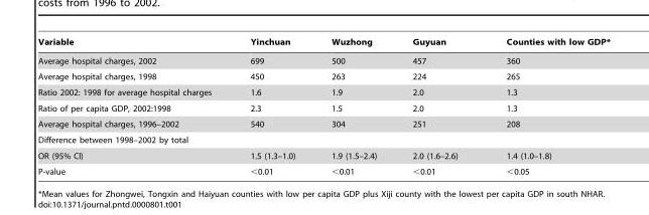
<table><thead><tr><td>Variable</td><td>Yinchuan</td><td>Wuzhong</td><td>Guyuan</td><td>Counties with low GDP*</td></tr></thead><tbody><tr><td>Average hospital charges, 2002</td><td>699</td><td>500</td><td>457</td><td>360</td></tr><tr><td>Average hospital charges, 1998</td><td>450</td><td>263</td><td>224</td><td>265</td></tr><tr><td>Ratio 2002: 1998 for average hospital charges</td><td>1.6</td><td>1.9</td><td>2.0</td><td>1.3</td></tr><tr><td>Ratio of per capita GDP, 2002:1998</td><td>2.3</td><td>1.5</td><td>2.0</td><td>1.3</td></tr><tr><td>Average hospital charges, 1996–2002</td><td>540</td><td>304</td><td>251</td><td>208</td></tr><tr><td colspan="5">Difference between 1998–2002 by total</td></tr><tr><td>OR (95% Cl)</td><td>1.5 (1.3–1.0)</td><td>1.9 (1.5–2.4)</td><td>2.0 (1.6–2.6)</td><td>1.4 (1.0–1.8)</td></tr><tr><td>P-value</td><td>&lt;0.01</td><td>&lt;0.01</td><td>&lt;0.01</td><td>&lt;0.05</td></tr></tbody></table>